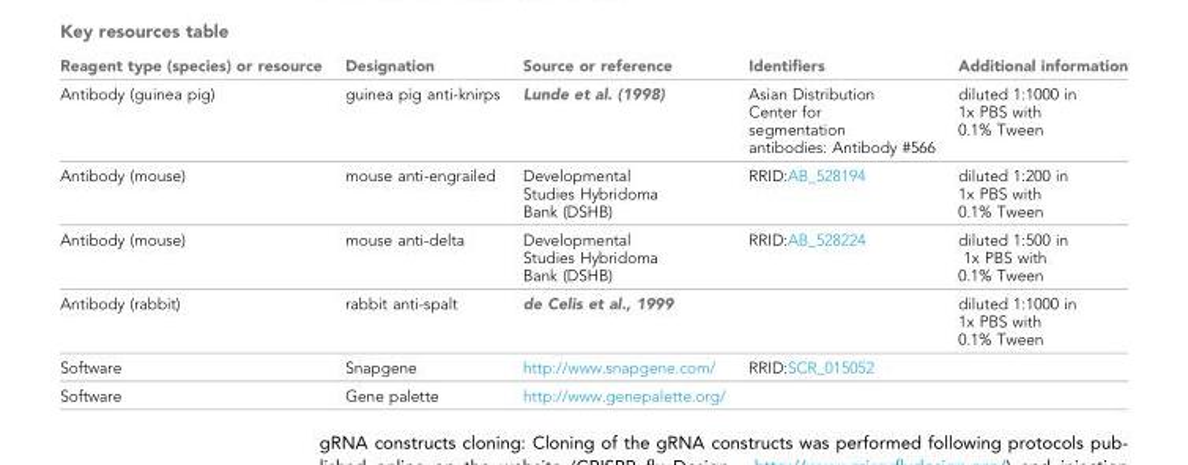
<table><thead><tr><td>Reagent type (species) or resource</td><td>Designation</td><td>Source or reference</td><td>Identifiers</td><td>Additional information</td></tr></thead><tbody><tr><td>Antibody (guinea pig)</td><td>guinea pig anti-knirps</td><td>Lunde et al. (1998)</td><td>Asian Distribution Center for segmentation antibodies: Antibody #566</td><td>diluted 1:1000 in 1x PBS with 0.1% Tween</td></tr><tr><td>Antibody (mouse)</td><td>mouse anti-engrailed</td><td>Developmental Studies Hybridoma Bank (DSHB)</td><td>RRID:AB_528194</td><td>diluted 1:200 in 1x PBS with 0.1% Tween</td></tr><tr><td>Antibody (mouse)</td><td>mouse anti-delta</td><td>Developmental Studies Hybridoma Bank (DSHB)</td><td>RRID:AB_528224</td><td>diluted 1:500 in 1x PBS with 0.1% Tween</td></tr><tr><td>Antibody (rabbit)</td><td>rabbit anti-spalt</td><td>de Celis et al., 1999</td><td></td><td>diluted 1:1000 in 1x PBS with 0.1% Tween</td></tr><tr><td>Software</td><td>Snapgene</td><td>http://www.snapgene.com/</td><td>RRID:SCR_015052</td><td></td></tr><tr><td>Software</td><td>Gene palette</td><td>http://www.genepalette.org/</td><td></td><td></td></tr></tbody></table>